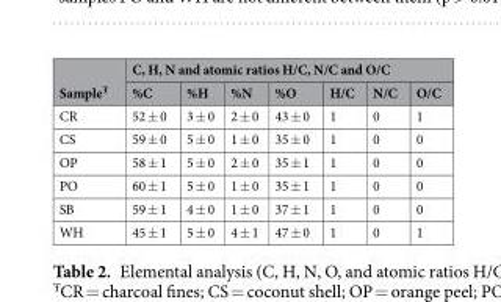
<table><thead><tr><td rowspan="2">Sample<sup>Ŧ</sup></td><td colspan="7">C, H, N and atomic ratios H/C, N/C and O/C</td></tr><tr><td>%C</td><td>%H</td><td>%N</td><td>%O</td><td>H/C</td><td>N/C</td><td>O/C</td></tr></thead><tbody><tr><td>CR</td><td>52 ± 0</td><td>3 ± 0</td><td>2 ± 0</td><td>43 ± 0</td><td>1</td><td>0</td><td>1</td></tr><tr><td>CS</td><td>59 ± 0</td><td>5 ± 0</td><td>1 ± 0</td><td>35 ± 0</td><td>1</td><td>0</td><td>0</td></tr><tr><td>OP</td><td>58 ± 1</td><td>5 ± 0</td><td>2 ± 0</td><td>35 ± 1</td><td>1</td><td>0</td><td>0</td></tr><tr><td>PO</td><td>60 ± 1</td><td>5 ± 0</td><td>1 ± 0</td><td>35 ± 1</td><td>1</td><td>0</td><td>0</td></tr><tr><td>SB</td><td>59 ± 1</td><td>4 ± 0</td><td>1 ± 0</td><td>37 ± 1</td><td>1</td><td>0</td><td>0</td></tr><tr><td>WH</td><td>45 ± 1</td><td>5 ± 0</td><td>4 ± 1</td><td>47 ± 0</td><td>1</td><td>0</td><td>1</td></tr></tbody></table>